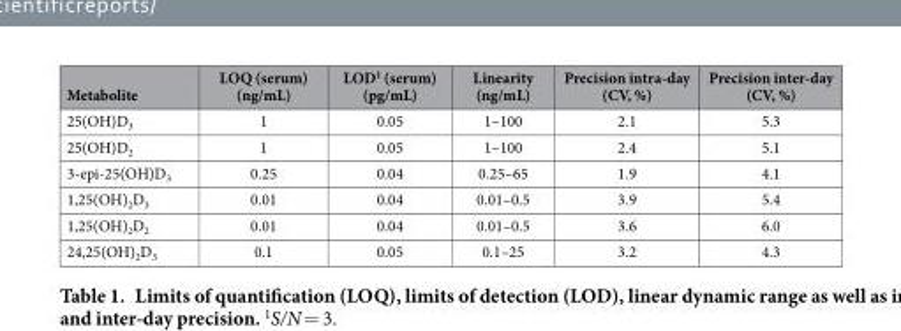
<table><thead><tr><td>Metabolite</td><td>LOQ (serum) (ng/mL)</td><td>LOD<sup>1</sup> (serum) (pg/mL)</td><td>Linearity (ng/mL)</td><td>Precision intra-day (CV, %)</td><td>Precision inter-day (CV, %)</td></tr></thead><tbody><tr><td>25(OH)D<sub>3</sub></td><td>1</td><td>0.05</td><td>1–100</td><td>2.1</td><td>5.3</td></tr><tr><td>25(OH)D<sub>2</sub></td><td>1</td><td>0.05</td><td>1–100</td><td>2.4</td><td>5.1</td></tr><tr><td>3-epi-25(OH)D<sub>3</sub></td><td>0.25</td><td>0.04</td><td>0.25–65</td><td>1.9</td><td>4.1</td></tr><tr><td>1,25(OH)<sub>2</sub>D<sub>3</sub></td><td>0.01</td><td>0.04</td><td>0.01–0.5</td><td>3.9</td><td>5.4</td></tr><tr><td>1,25(OH)<sub>2</sub>D<sub>2</sub></td><td>0.01</td><td>0.04</td><td>0.01–0.5</td><td>3.6</td><td>6.0</td></tr><tr><td>24,25(OH)<sub>2</sub>D<sub>3</sub></td><td>0.1</td><td>0.05</td><td>0.1–25</td><td>3.2</td><td>4.3</td></tr></tbody></table>